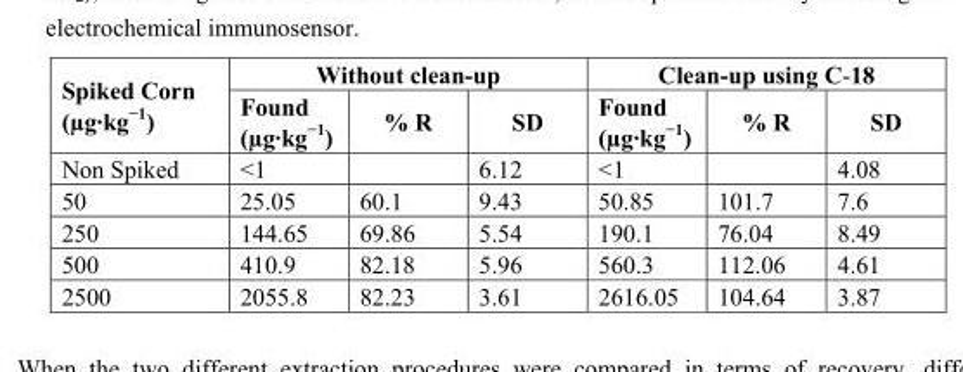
<table><thead><tr><td rowspan="2">Spiked Corn (µg·kg<sup>−1</sup>)</td><td colspan="3">Without clean-up</td><td colspan="3">Clean-up using C-18</td></tr><tr><td>Found (µg·kg<sup>−1</sup>)</td><td>% R</td><td>SD</td><td>Found (µg·kg<sup>−1</sup>)</td><td>% R</td><td>SD</td></tr></thead><tbody><tr><td>Non Spiked</td><td>&lt;1</td><td></td><td>6.12</td><td>&lt;1</td><td></td><td>4.08</td></tr><tr><td>50</td><td>25.05</td><td>60.1</td><td>9.43</td><td>50.85</td><td>101.7</td><td>7.6</td></tr><tr><td>250</td><td>144.65</td><td>69.86</td><td>5.54</td><td>190.1</td><td>76.04</td><td>8.49</td></tr><tr><td>500</td><td>410.9</td><td>82.18</td><td>5.96</td><td>560.3</td><td>112.06</td><td>4.61</td></tr><tr><td>2500</td><td>2055.8</td><td>82.23</td><td>3.61</td><td>2616.05</td><td>104.64</td><td>3.87</td></tr></tbody></table>